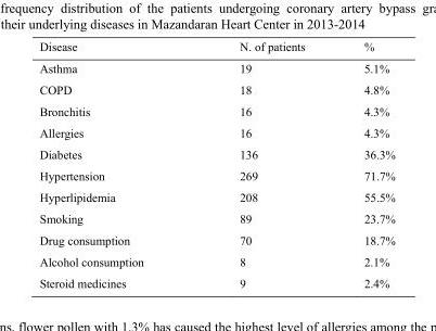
<table><thead><tr><td>Disease</td><td>N. of patients</td><td>%</td></tr></thead><tbody><tr><td>Asthma</td><td>19</td><td>5.1%</td></tr><tr><td>COPD</td><td>18</td><td>4.8%</td></tr><tr><td>Bronchitis</td><td>16</td><td>4.3%</td></tr><tr><td>Allergies</td><td>16</td><td>4.3%</td></tr><tr><td>Diabetes</td><td>136</td><td>36.3%</td></tr><tr><td>Hypertension</td><td>269</td><td>71.7%</td></tr><tr><td>Hyperlipidemia</td><td>208</td><td>55.5%</td></tr><tr><td>Smoking</td><td>89</td><td>23.7%</td></tr><tr><td>Drug consumption</td><td>70</td><td>18.7%</td></tr><tr><td>Alcohol consumption</td><td>8</td><td>2.1%</td></tr><tr><td>Steroid medicines</td><td>9</td><td>2.4%</td></tr></tbody></table>